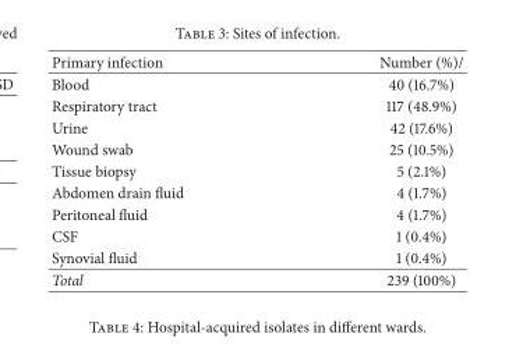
<table><thead><tr><td>Primary infection</td><td>Number (%)/</td></tr></thead><tbody><tr><td>Blood</td><td>40 (16.7%)</td></tr><tr><td>Respiratory tract</td><td>117 (48.9%)</td></tr><tr><td>Urine</td><td>42 (17.6%)</td></tr><tr><td>Wound swab</td><td>25 (10.5%)</td></tr><tr><td>Tissue biopsy</td><td>5 (2.1%)</td></tr><tr><td>Abdomen drain fluid</td><td>4 (1.7%)</td></tr><tr><td>Peritoneal fluid</td><td>4 (1.7%)</td></tr><tr><td>CSF</td><td>1 (0.4%)</td></tr><tr><td>Synovial fluid</td><td>1 (0.4%)</td></tr><tr><td>Total</td><td>239 (100%)</td></tr></tbody></table>